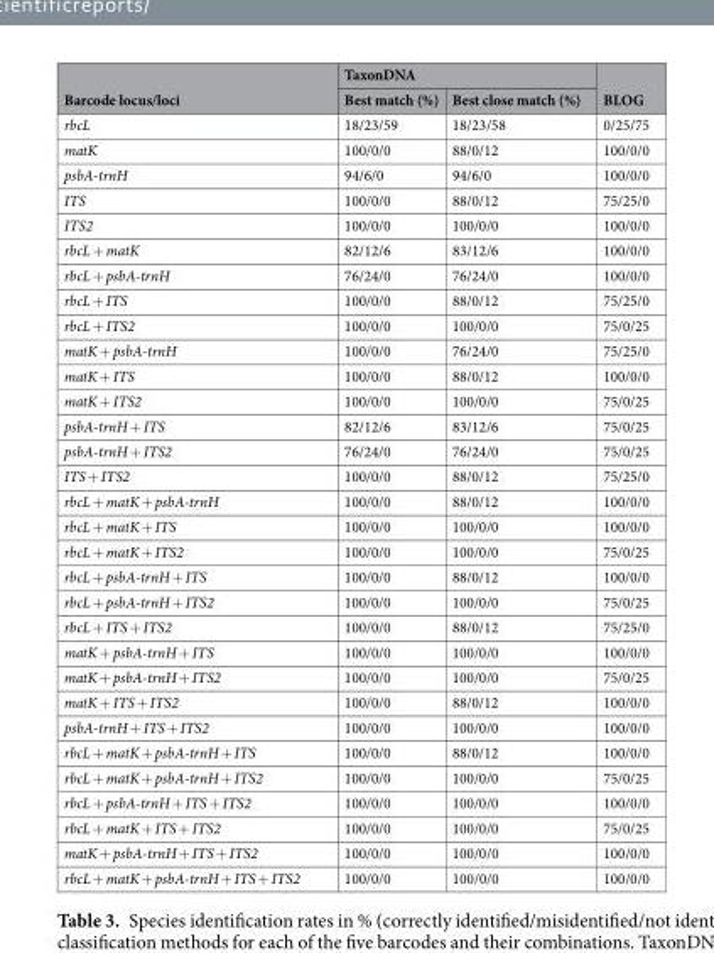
<table><thead><tr><td rowspan="2">Barcode locus/loci</td><td colspan="2">TaxonDNA</td><td rowspan="2">BLOG</td></tr><tr><td>Best match (%)</td><td>Best close match (%)</td></tr></thead><tbody><tr><td>rbcL</td><td>18/23/59</td><td>18/23/58</td><td>0/25/75</td></tr><tr><td>matK</td><td>100/0/0</td><td>88/0/12</td><td>100/0/0</td></tr><tr><td>psbA-trnH</td><td>94/6/0</td><td>94/6/0</td><td>100/0/0</td></tr><tr><td>ITS</td><td>100/0/0</td><td>88/0/12</td><td>75/25/0</td></tr><tr><td>ITS2</td><td>100/0/0</td><td>100/0/0</td><td>100/0/0</td></tr><tr><td>rbcL + matK</td><td>82/12/6</td><td>83/12/6</td><td>100/0/0</td></tr><tr><td>rbcL + psbA-trnH</td><td>76/24/0</td><td>76/24/0</td><td>100/0/0</td></tr><tr><td>rbcL + ITS</td><td>100/0/0</td><td>88/0/12</td><td>75/25/0</td></tr><tr><td>rbcL + ITS2</td><td>100/0/0</td><td>100/0/0</td><td>75/0/25</td></tr><tr><td>matK + psbA-trnH</td><td>100/0/0</td><td>76/24/0</td><td>75/25/0</td></tr><tr><td>matK + ITS</td><td>100/0/0</td><td>88/0/12</td><td>100/0/0</td></tr><tr><td>matK + ITS2</td><td>100/0/0</td><td>100/0/0</td><td>75/0/25</td></tr><tr><td>psbA-trnH + ITS</td><td>82/12/6</td><td>83/12/6</td><td>75/0/25</td></tr><tr><td>psbA-trnH + ITS2</td><td>76/24/0</td><td>76/24/0</td><td>75/0/25</td></tr><tr><td>ITS + ITS2</td><td>100/0/0</td><td>88/0/12</td><td>75/25/0</td></tr><tr><td>rbcL + matK + psbA-trnH</td><td>100/0/0</td><td>88/0/12</td><td>100/0/0</td></tr><tr><td>rbcL + matK + ITS</td><td>100/0/0</td><td>100/0/0</td><td>100/0/0</td></tr><tr><td>rbcL + matK + ITS2</td><td>100/0/0</td><td>100/0/0</td><td>75/0/25</td></tr><tr><td>rbcL + psbA-trnH + ITS</td><td>100/0/0</td><td>88/0/12</td><td>100/0/0</td></tr><tr><td>rbcL + psbA-trnH + ITS2</td><td>100/0/0</td><td>100/0/0</td><td>75/0/25</td></tr><tr><td>rbcL + ITS + ITS2</td><td>100/0/0</td><td>88/0/12</td><td>75/25/0</td></tr><tr><td>matK + psbA-trnH + ITS</td><td>100/0/0</td><td>100/0/0</td><td>100/0/0</td></tr><tr><td>matK + psbA-trnH + ITS2</td><td>100/0/0</td><td>100/0/0</td><td>75/0/25</td></tr><tr><td>matK + ITS + ITS2</td><td>100/0/0</td><td>88/0/12</td><td>100/0/0</td></tr><tr><td>psbA-trnH + ITS + ITS2</td><td>100/0/0</td><td>100/0/0</td><td>100/0/0</td></tr><tr><td>rbcL + matK + psbA-trnH + ITS</td><td>100/0/0</td><td>88/0/12</td><td>100/0/0</td></tr><tr><td>rbcL + matK + psbA-trnH + ITS2</td><td>100/0/0</td><td>100/0/0</td><td>75/0/25</td></tr><tr><td>rbcL + psbA-trnH + ITS + ITS2</td><td>100/0/0</td><td>100/0/0</td><td>100/0/0</td></tr><tr><td>rbcL + matK + ITS + ITS2</td><td>100/0/0</td><td>100/0/0</td><td>75/0/25</td></tr><tr><td>matK + psbA-trnH + ITS + ITS2</td><td>100/0/0</td><td>100/0/0</td><td>100/0/0</td></tr><tr><td>rbcL + matK + psbA-trnH + ITS + ITS2</td><td>100/0/0</td><td>100/0/0</td><td>100/0/0</td></tr></tbody></table>